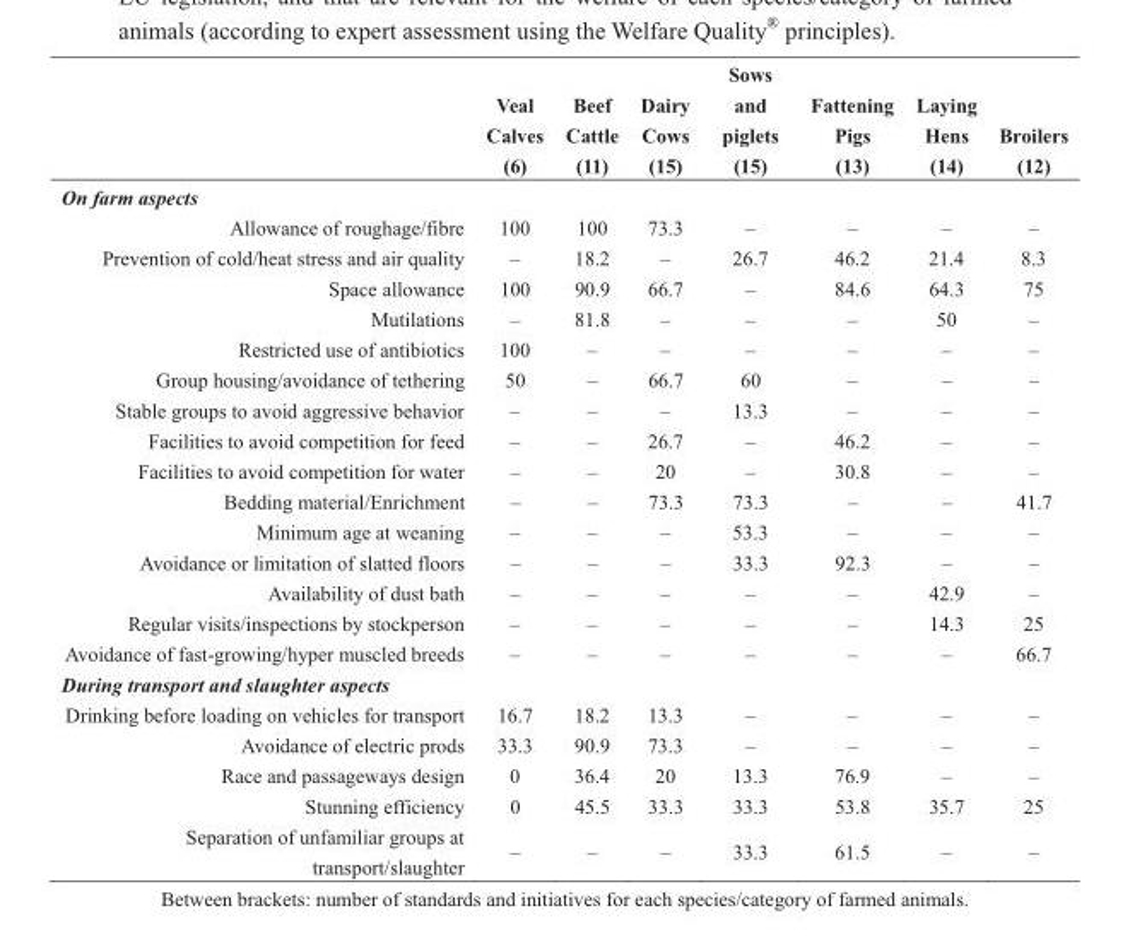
<table><thead><tr><td></td><td>Veal Calves (6)</td><td>Beef Cattle (11)</td><td>Dairy Cows (15)</td><td>Sows and piglets (15)</td><td>Fattening Pigs (13)</td><td>Laying Hens (14)</td><td>Broilers (12)</td></tr></thead><tbody><tr><td colspan="8">On farm aspects</td></tr><tr><td>Allowance of roughage/fibre</td><td>100</td><td>100</td><td>73.3</td><td>–</td><td>–</td><td>–</td><td>–</td></tr><tr><td>Prevention of cold/heat stress and air quality</td><td>–</td><td>18.2</td><td>–</td><td>26.7</td><td>46.2</td><td>21.4</td><td>8.3</td></tr><tr><td>Space allowance</td><td>100</td><td>90.9</td><td>66.7</td><td>–</td><td>84.6</td><td>64.3</td><td>75</td></tr><tr><td>Mutilations</td><td>–</td><td>81.8</td><td>–</td><td>–</td><td>–</td><td>50</td><td>–</td></tr><tr><td>Restricted use of antibiotics</td><td>100</td><td>–</td><td>–</td><td>–</td><td>–</td><td>–</td><td>–</td></tr><tr><td>Group housing/avoidance of tethering</td><td>50</td><td>–</td><td>66.7</td><td>60</td><td>–</td><td>–</td><td>–</td></tr><tr><td>Stable groups to avoid aggressive behavior</td><td>–</td><td>–</td><td>–</td><td>13.3</td><td>–</td><td>–</td><td>–</td></tr><tr><td>Facilities to avoid competition for feed</td><td>–</td><td>–</td><td>26.7</td><td>–</td><td>46.2</td><td>–</td><td>–</td></tr><tr><td>Facilities to avoid competition for water</td><td>–</td><td>–</td><td>20</td><td>–</td><td>30.8</td><td>–</td><td>–</td></tr><tr><td>Bedding material/Enrichment</td><td>–</td><td>–</td><td>73.3</td><td>73.3</td><td>–</td><td>–</td><td>41.7</td></tr><tr><td>Minimum age at weaning</td><td>–</td><td>–</td><td>–</td><td>53.3</td><td>–</td><td>–</td><td>–</td></tr><tr><td>Avoidance or limitation of slatted floors</td><td>–</td><td>–</td><td>–</td><td>33.3</td><td>92.3</td><td>–</td><td>–</td></tr><tr><td>Availability of dust bath</td><td>–</td><td>–</td><td>–</td><td>–</td><td>–</td><td>42.9</td><td>–</td></tr><tr><td>Regular visits/inspections by stockperson</td><td>–</td><td>–</td><td>–</td><td>–</td><td>–</td><td>14.3</td><td>25</td></tr><tr><td>Avoidance of fast-growing/hyper muscled breeds</td><td>–</td><td>–</td><td>–</td><td>–</td><td>–</td><td>–</td><td>66.7</td></tr><tr><td colspan="8">During transport and slaughter aspects</td></tr><tr><td>Drinking before loading on vehicles for transport</td><td>16.7</td><td>18.2</td><td>13.3</td><td>–</td><td>–</td><td>–</td><td>–</td></tr><tr><td>Avoidance of electric prods</td><td>33.3</td><td>90.9</td><td>73.3</td><td>–</td><td>–</td><td>–</td><td>–</td></tr><tr><td>Race and passageways design</td><td>0</td><td>36.4</td><td>20</td><td>13.3</td><td>76.9</td><td>–</td><td>–</td></tr><tr><td>Stunning efficiency</td><td>0</td><td>45.5</td><td>33.3</td><td>33.3</td><td>53.8</td><td>35.7</td><td>25</td></tr><tr><td>Separation of unfamiliar groups at transport/slaughter</td><td>–</td><td>–</td><td>–</td><td>33.3</td><td>61.5</td><td>–</td><td>–</td></tr></tbody></table>